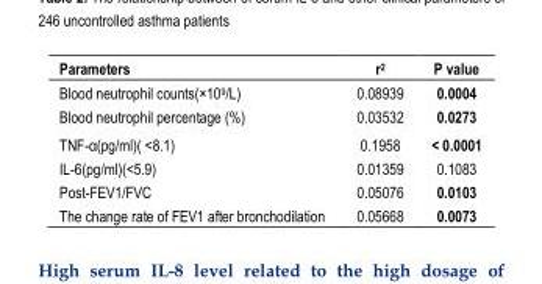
<table><thead><tr><td>Parameters</td><td>r<sup>2</sup></td><td>P value</td></tr></thead><tbody><tr><td>Blood neutrophil counts(×10<sup>9</sup>/L)</td><td>0.08939</td><td>0.0004</td></tr><tr><td>Blood neutrophil percentage (%)</td><td>0.03532</td><td>0.0273</td></tr><tr><td>TNF-α(pg/ml)( &lt;8.1)</td><td>0.1958</td><td>&lt; 0.0001</td></tr><tr><td>IL-6(pg/ml)(&lt;5.9)</td><td>0.01359</td><td>0.1083</td></tr><tr><td>Post-FEV<sub>1</sub>/FVC</td><td>0.05076</td><td>0.0103</td></tr><tr><td>The change rate of FEV<sub>1</sub> after bronchodilation</td><td>0.05668</td><td>0.0073</td></tr></tbody></table>